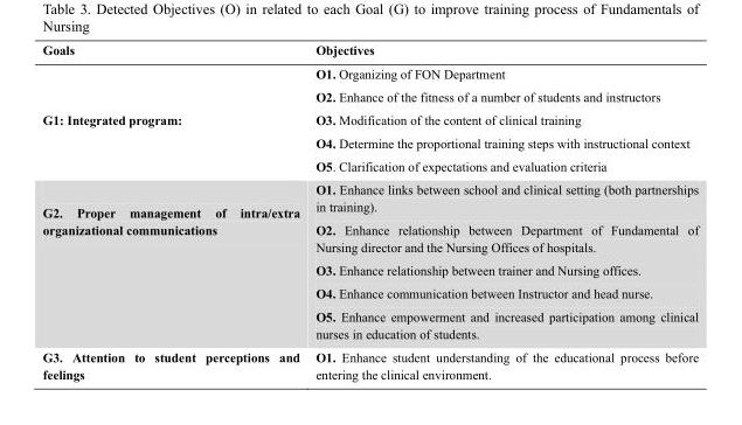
<table><thead><tr><td>Goals</td><td>Objectives</td></tr></thead><tbody><tr><td>G1: Integrated program:</td><td>O1. Organizing of FON Department O2. Enhance of the fitness of a number of students and instructors O3. Modification of the content of clinical training O4. Determine the proportional training steps with instructional context O5. Clarification of expectations and evaluation criteria</td></tr><tr><td>G2. Proper management of intra/extra organizational communications</td><td>O1. Enhance links between school and clinical setting (both partnerships in training). O2. Enhance relationship between Department of Fundamental of Nursing director and the Nursing Offices of hospitals. O3. Enhance relationship between trainer and Nursing offices. O4. Enhance communication between Instructor and head nurse. O5. Enhance empowerment and increased participation among clinical nurses in education of students.</td></tr><tr><td>G3. Attention to student perceptions and feelings</td><td>O1. Enhance student understanding of the educational process before entering the clinical environment.</td></tr></tbody></table>